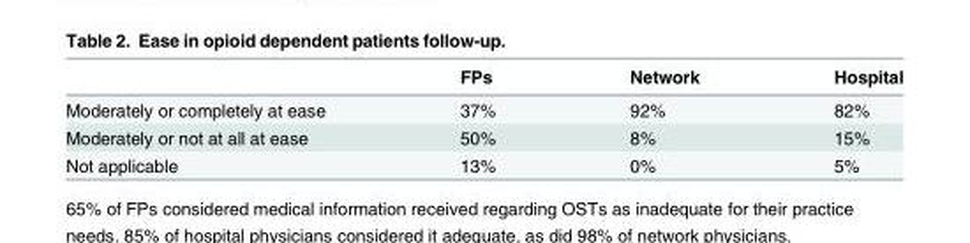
<table><thead><tr><td></td><td>FPs</td><td>Network</td><td>Hospital</td></tr></thead><tbody><tr><td>Moderately or completely at ease</td><td>37%</td><td>92%</td><td>82%</td></tr><tr><td>Moderately or not at all at ease</td><td>50%</td><td>8%</td><td>15%</td></tr><tr><td>Not applicable</td><td>13%</td><td>0%</td><td>5%</td></tr></tbody></table>